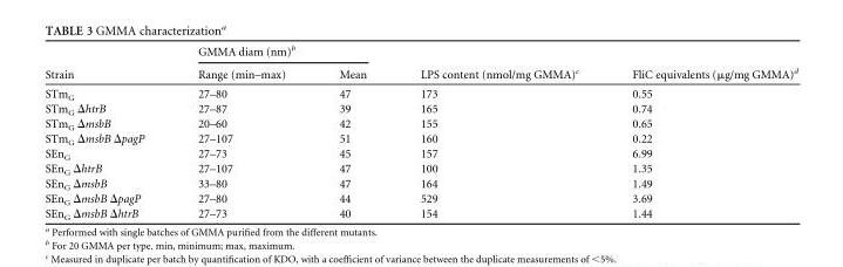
<table><thead><tr><td rowspan="2">Strain</td><td colspan="2">GMMA diam (nm)<sup>b</sup></td><td rowspan="2">LPS content (nmol/mg GMMA)<sup>c</sup></td><td rowspan="2">FliC equivalents (μg/mg GMMA)<sup>d</sup></td></tr><tr><td>Range (min–max)</td><td>Mean</td></tr></thead><tbody><tr><td>STm<sub>G</sub></td><td>27–80</td><td>47</td><td>173</td><td>0.55</td></tr><tr><td>STm<sub>G</sub> ΔhtrB</td><td>27–87</td><td>39</td><td>165</td><td>0.74</td></tr><tr><td>STm<sub>G</sub> ΔmsbB</td><td>20–60</td><td>42</td><td>155</td><td>0.65</td></tr><tr><td>STm<sub>G</sub> ΔmsbB ΔpagP</td><td>27–107</td><td>51</td><td>160</td><td>0.22</td></tr><tr><td>SEn<sub>G</sub></td><td>27–73</td><td>45</td><td>157</td><td>6.99</td></tr><tr><td>SEn<sub>G</sub> ΔhtrB</td><td>27–107</td><td>47</td><td>100</td><td>1.35</td></tr><tr><td>SEn<sub>G</sub> ΔmsbB</td><td>33–80</td><td>47</td><td>164</td><td>1.49</td></tr><tr><td>SEn<sub>G</sub> ΔmsbB ΔpagP</td><td>27–80</td><td>44</td><td>529</td><td>3.69</td></tr><tr><td>SEn<sub>G</sub> ΔmsbB ΔhtrB</td><td>27–73</td><td>40</td><td>154</td><td>1.44</td></tr></tbody></table>